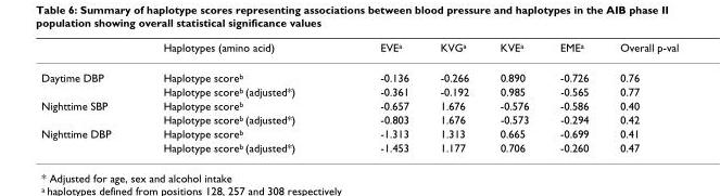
<table><thead><tr><td></td><td>Haplotypes (amino acid)</td><td>EVEa</td><td>KVGa</td><td>KVEa</td><td>EMEa</td><td>Overall p-val</td></tr></thead><tbody><tr><td rowspan="2">Daytime DBP</td><td>Haplotype scoreb</td><td>-0.136</td><td>-0.266</td><td>0.890</td><td>-0.726</td><td>0.76</td></tr><tr><td>Haplotype scoreb (adjusted*)</td><td>-0.361</td><td>-0.192</td><td>0.985</td><td>-0.565</td><td>0.77</td></tr><tr><td rowspan="2">Nighttime SBP</td><td>Haplotype scoreb</td><td>-0.657</td><td>1.676</td><td>-0.576</td><td>-0.586</td><td>0.40</td></tr><tr><td>Haplotype scoreb (adjusted*)</td><td>-0.803</td><td>1.676</td><td>-0.573</td><td>-0.294</td><td>0.42</td></tr><tr><td rowspan="2">Nighttime DBP</td><td>Haplotype scoreb</td><td>-1.313</td><td>1.313</td><td>0.665</td><td>-0.699</td><td>0.41</td></tr><tr><td>Haplotype scoreb (adjusted*)</td><td>-1.453</td><td>1.177</td><td>0.706</td><td>-0.260</td><td>0.47</td></tr></tbody></table>